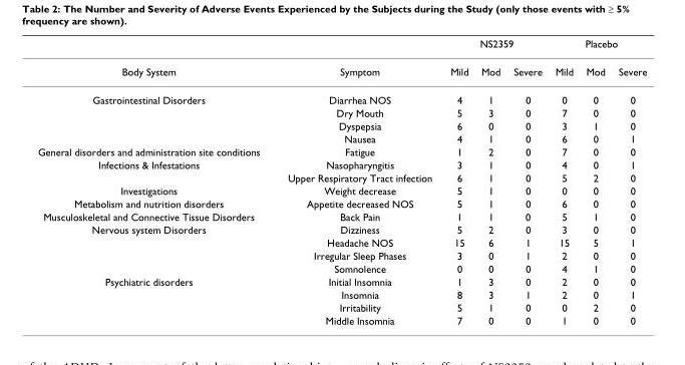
<table><thead><tr><td rowspan="2">Body System</td><td rowspan="2">Symptom</td><td colspan="3">NS2359</td><td colspan="3">Placebo</td></tr><tr><td>Mild</td><td>Mod</td><td>Severe</td><td>Mild</td><td>Mod</td><td>Severe</td></tr></thead><tbody><tr><td rowspan="4">Gastrointestinal Disorders</td><td>Diarrhea NOS</td><td>4</td><td>1</td><td>0</td><td>0</td><td>0</td><td>0</td></tr><tr><td>Dry Mouth</td><td>5</td><td>3</td><td>0</td><td>7</td><td>0</td><td>0</td></tr><tr><td>Dyspepsia</td><td>6</td><td>0</td><td>0</td><td>3</td><td>1</td><td>0</td></tr><tr><td>Nausea</td><td>4</td><td>1</td><td>0</td><td>6</td><td>0</td><td>1</td></tr><tr><td>General disorders and administration site conditions</td><td>Fatigue</td><td>1</td><td>2</td><td>0</td><td>7</td><td>0</td><td>0</td></tr><tr><td rowspan="2">Infections &amp; Infestations</td><td>Nasopharyngitis</td><td>3</td><td>1</td><td>0</td><td>4</td><td>0</td><td>1</td></tr><tr><td>Upper Respiratory Tract infection</td><td>6</td><td>1</td><td>0</td><td>5</td><td>2</td><td>0</td></tr><tr><td>Investigations</td><td>Weight decrease</td><td>5</td><td>1</td><td>0</td><td>0</td><td>0</td><td>0</td></tr><tr><td>Metabolism and nutrition disorders</td><td>Appetite decreased NOS</td><td>5</td><td>1</td><td>0</td><td>6</td><td>0</td><td>0</td></tr><tr><td>Musculoskeletal and Connective Tissue Disorders</td><td>Back Pain</td><td>1</td><td>1</td><td>0</td><td>5</td><td>1</td><td>0</td></tr><tr><td rowspan="4">Nervous system Disorders</td><td>Dizziness</td><td>5</td><td>2</td><td>0</td><td>3</td><td>0</td><td>0</td></tr><tr><td>Headache NOS</td><td>15</td><td>6</td><td>1</td><td>15</td><td>5</td><td>1</td></tr><tr><td>Irregular Sleep Phases</td><td>3</td><td>0</td><td>1</td><td>2</td><td>0</td><td>0</td></tr><tr><td>Somnolence</td><td>0</td><td>0</td><td>0</td><td>4</td><td>1</td><td>0</td></tr><tr><td rowspan="4">Psychiatric disorders</td><td>Initial Insomnia</td><td>1</td><td>3</td><td>0</td><td>2</td><td>0</td><td>0</td></tr><tr><td>Insomnia</td><td>8</td><td>3</td><td>1</td><td>2</td><td>0</td><td>1</td></tr><tr><td>Irritability</td><td>5</td><td>1</td><td>0</td><td>0</td><td>2</td><td>0</td></tr><tr><td>Middle Insomnia</td><td>7</td><td>0</td><td>0</td><td>1</td><td>0</td><td>0</td></tr></tbody></table>